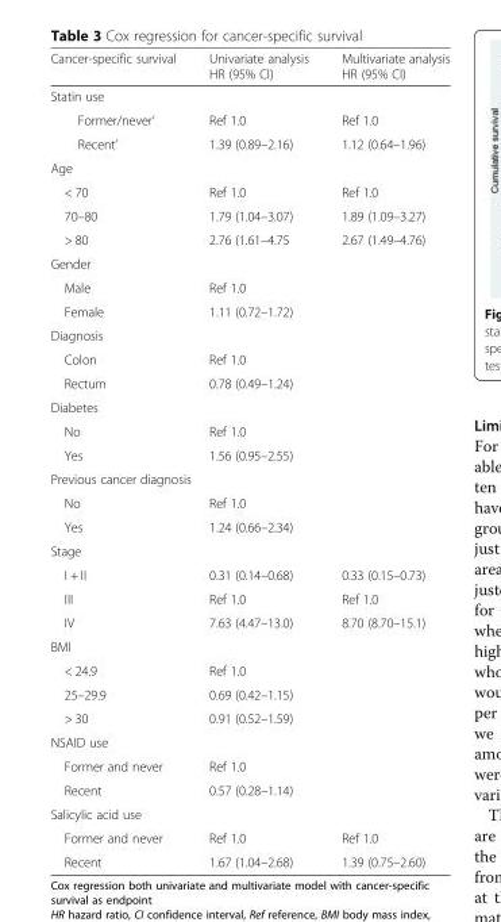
<table><thead><tr><td>Cancer-specific survival</td><td>Univariate analysis HR (95% CI)</td><td>Multivariate analysis HR (95% CI)</td></tr></thead><tbody><tr><td colspan="3">Statin use</td></tr><tr><td>Former/never’</td><td>Ref 1.0</td><td>Ref 1.0</td></tr><tr><td>Recent’</td><td>1.39 (0.89–2.16)</td><td>1.12 (0.64–1.96)</td></tr><tr><td colspan="3">Age</td></tr><tr><td>&lt; 70</td><td>Ref 1.0</td><td>Ref 1.0</td></tr><tr><td>70–80</td><td>1.79 (1.04–3.07)</td><td>1.89 (1.09–3.27)</td></tr><tr><td>&gt; 80</td><td>2.76 (1.61–4.75</td><td>2.67 (1.49–4.76)</td></tr><tr><td colspan="3">Gender</td></tr><tr><td>Male</td><td>Ref 1.0</td><td></td></tr><tr><td>Female</td><td>1.11 (0.72–1.72)</td><td></td></tr><tr><td colspan="3">Diagnosis</td></tr><tr><td>Colon</td><td>Ref 1.0</td><td></td></tr><tr><td>Rectum</td><td>0.78 (0.49–1.24)</td><td></td></tr><tr><td colspan="3">Diabetes</td></tr><tr><td>No</td><td>Ref 1.0</td><td></td></tr><tr><td>Yes</td><td>1.56 (0.95–2.55)</td><td></td></tr><tr><td colspan="3">Previous cancer diagnosis</td></tr><tr><td>No</td><td>Ref 1.0</td><td></td></tr><tr><td>Yes</td><td>1.24 (0.66–2.34)</td><td></td></tr><tr><td colspan="3">Stage</td></tr><tr><td>I + II</td><td>0.31 (0.14–0.68)</td><td>0.33 (0.15–0.73)</td></tr><tr><td>III</td><td>Ref 1.0</td><td>Ref 1.0</td></tr><tr><td>IV</td><td>7.63 (4.47–13.0)</td><td>8.70 (8.70–15.1)</td></tr><tr><td colspan="3">BMI</td></tr><tr><td>&lt; 24.9</td><td>Ref 1.0</td><td></td></tr><tr><td>25–29.9</td><td>0.69 (0.42–1.15)</td><td></td></tr><tr><td>&gt; 30</td><td>0.91 (0.52–1.59)</td><td></td></tr><tr><td colspan="3">NSAID use</td></tr><tr><td>Former and never</td><td>Ref 1.0</td><td></td></tr><tr><td>Recent</td><td>0.57 (0.28–1.14)</td><td></td></tr><tr><td colspan="3">Salicylic acid use</td></tr><tr><td>Former and never</td><td>Ref 1.0</td><td>Ref 1.0</td></tr><tr><td>Recent</td><td>1.67 (1.04–2.68)</td><td>1.39 (0.75–2.60)</td></tr></tbody></table>